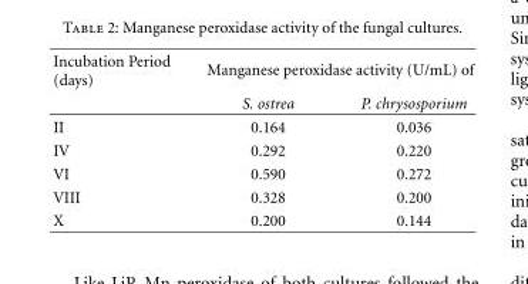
<table><thead><tr><td rowspan="2">Incubation Period (days)</td><td colspan="2">Manganese peroxidase activity (U/mL) of</td></tr><tr><td>S. ostrea</td><td>P. chrysosporium</td></tr></thead><tbody><tr><td>II</td><td>0.164</td><td>0.036</td></tr><tr><td>IV</td><td>0.292</td><td>0.220</td></tr><tr><td>VI</td><td>0.590</td><td>0.272</td></tr><tr><td>VIII</td><td>0.328</td><td>0.200</td></tr><tr><td>X</td><td>0.200</td><td>0.144</td></tr></tbody></table>